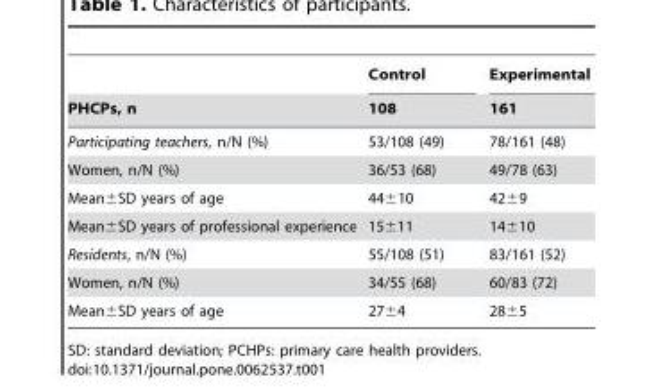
<table><thead><tr><td rowspan="2">PHCPs, n</td><td rowspan="2">Control 108</td><td rowspan="2">Experimental 161</td></tr><tr></tr></thead><tbody><tr><td>Participating teachers, n/N (%)</td><td>53/108 (49)</td><td>78/161 (48)</td></tr><tr><td>Women, n/N (%)</td><td>36/53 (68)</td><td>49/78 (63)</td></tr><tr><td>Mean±SD years of age</td><td>44±10</td><td>42±9</td></tr><tr><td>Mean±SD years of professional experience</td><td>15±11</td><td>14±10</td></tr><tr><td>Residents, n/N (%)</td><td>55/108 (51)</td><td>83/161 (52)</td></tr><tr><td>Women, n/N (%)</td><td>34/55 (68)</td><td>60/83 (72)</td></tr><tr><td>Mean±SD years of age</td><td>27±4</td><td>28±5</td></tr></tbody></table>